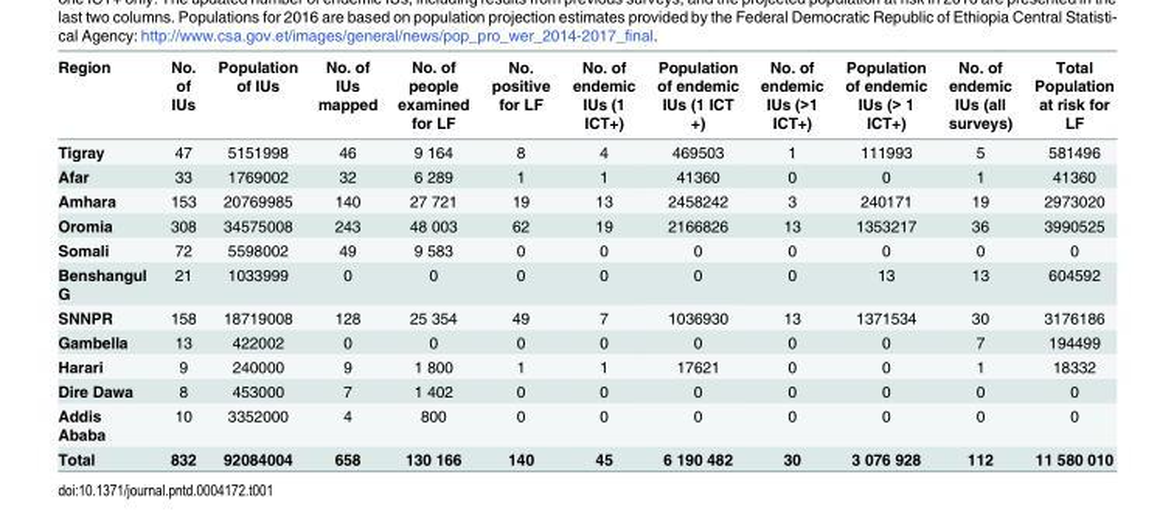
<table><thead><tr><td>Region</td><td>No. of IUs</td><td>Population of IUs</td><td>No. of IUs mapped</td><td>No. of people examined for LF</td><td>No. positive for LF</td><td>No. of endemic IUs (1 ICT+)</td><td>Population of endemic IUs (1 ICT +)</td><td>No. of endemic IUs (&gt;1 ICT+)</td><td>Population of endemic IUs (&gt; 1 ICT+)</td><td>No. of endemic IUs (all surveys)</td><td>Total Population at risk for LF</td></tr></thead><tbody><tr><td>Tigray</td><td>47</td><td>5151998</td><td>46</td><td>9 164</td><td>8</td><td>4</td><td>469503</td><td>1</td><td>111993</td><td>5</td><td>581496</td></tr><tr><td>Afar</td><td>33</td><td>1769002</td><td>32</td><td>6 289</td><td>1</td><td>1</td><td>41360</td><td>0</td><td>0</td><td>1</td><td>41360</td></tr><tr><td>Amhara</td><td>153</td><td>20769985</td><td>140</td><td>27 721</td><td>19</td><td>13</td><td>2458242</td><td>3</td><td>240171</td><td>19</td><td>2973020</td></tr><tr><td>Oromia</td><td>308</td><td>34575008</td><td>243</td><td>48 003</td><td>62</td><td>19</td><td>2166826</td><td>13</td><td>1353217</td><td>36</td><td>3990525</td></tr><tr><td>Somali</td><td>72</td><td>5598002</td><td>49</td><td>9 583</td><td>0</td><td>0</td><td>0</td><td>0</td><td>0</td><td>0</td><td>0</td></tr><tr><td>Benshangul G</td><td>21</td><td>1033999</td><td>0</td><td>0</td><td>0</td><td>0</td><td>0</td><td>0</td><td>13</td><td>13</td><td>604592</td></tr><tr><td>SNNPR</td><td>158</td><td>18719008</td><td>128</td><td>25 354</td><td>49</td><td>7</td><td>1036930</td><td>13</td><td>1371534</td><td>30</td><td>3176186</td></tr><tr><td>Gambella</td><td>13</td><td>422002</td><td>0</td><td>0</td><td>0</td><td>0</td><td>0</td><td>0</td><td>0</td><td>7</td><td>194499</td></tr><tr><td>Harari</td><td>9</td><td>240000</td><td>9</td><td>1 800</td><td>1</td><td>1</td><td>17621</td><td>0</td><td>0</td><td>1</td><td>18332</td></tr><tr><td>Dire Dawa</td><td>8</td><td>453000</td><td>7</td><td>1 402</td><td>0</td><td>0</td><td>0</td><td>0</td><td>0</td><td>0</td><td>0</td></tr><tr><td>Addis Ababa</td><td>10</td><td>3352000</td><td>4</td><td>800</td><td>0</td><td>0</td><td>0</td><td>0</td><td>0</td><td>0</td><td>0</td></tr><tr><td>Total</td><td>832</td><td>92084004</td><td>658</td><td>130 166</td><td>140</td><td>45</td><td>6 190 482</td><td>30</td><td>3 076 928</td><td>112</td><td>11 580 010</td></tr></tbody></table>